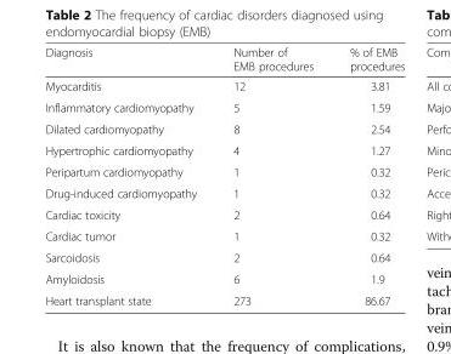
<table><thead><tr><td>Diagnosis</td><td>Number of EMB procedures</td><td>% of EMB procedures</td></tr></thead><tbody><tr><td>Myocarditis</td><td>12</td><td>3.81</td></tr><tr><td>Inflammatory cardiomyopathy</td><td>5</td><td>1.59</td></tr><tr><td>Dilated cardiomyopathy</td><td>8</td><td>2.54</td></tr><tr><td>Hypertrophic cardiomyopathy</td><td>4</td><td>1.27</td></tr><tr><td>Peripartum cardiomyopathy</td><td>1</td><td>0.32</td></tr><tr><td>Drug-induced cardiomyopathy</td><td>1</td><td>0.32</td></tr><tr><td>Cardiac toxicity</td><td>2</td><td>0.64</td></tr><tr><td>Cardiac tumor</td><td>1</td><td>0.32</td></tr><tr><td>Sarcoidosis</td><td>2</td><td>0.64</td></tr><tr><td>Amyloidosis</td><td>6</td><td>1.9</td></tr><tr><td>Heart transplant state</td><td>273</td><td>86.67</td></tr></tbody></table>